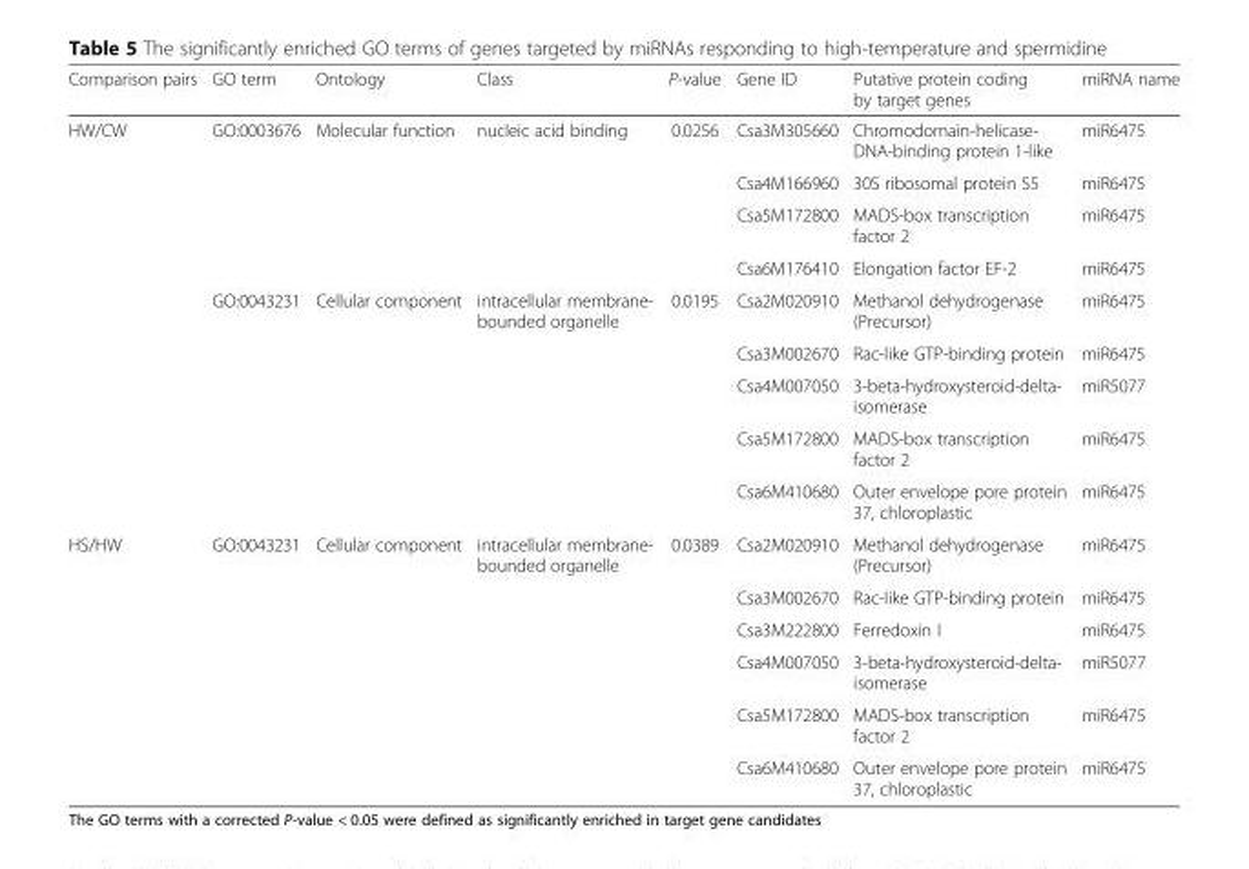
<table><thead><tr><td>Comparison pairs</td><td>GO term</td><td>Ontology</td><td>Class</td><td>P-value</td><td>Gene ID</td><td>Putative protein coding by target genes</td><td>miRNA name</td></tr></thead><tbody><tr><td rowspan="9">HW/CW</td><td>GO:0003676</td><td>Molecular function</td><td>nucleic acid binding</td><td>0.0256</td><td>Csa3M305660</td><td>Chromodomain-helicase- DNA-binding protein 1-like</td><td>miR6475</td></tr><tr><td></td><td></td><td></td><td></td><td>Csa4M166960</td><td>30S ribosomal protein S5</td><td>miR6475</td></tr><tr><td></td><td></td><td></td><td></td><td>Csa5M172800</td><td>MADS-box transcription factor 2</td><td>miR6475</td></tr><tr><td></td><td></td><td></td><td></td><td>Csa6M176410</td><td>Elongation factor EF-2</td><td>miR6475</td></tr><tr><td>GO:0043231</td><td>Cellular component</td><td>intracellular membrane- bounded organelle</td><td>0.0195</td><td>Csa2M020910</td><td>Methanol dehydrogenase (Precursor)</td><td>miR6475</td></tr><tr><td></td><td></td><td></td><td></td><td>Csa3M002670</td><td>Rac-like GTP-binding protein</td><td>miR6475</td></tr><tr><td></td><td></td><td></td><td></td><td>Csa4M007050</td><td>3-beta-hydroxysteroid-delta- isomerase</td><td>miR5077</td></tr><tr><td></td><td></td><td></td><td></td><td>Csa5M172800</td><td>MADS-box transcription factor 2</td><td>miR6475</td></tr><tr><td></td><td></td><td></td><td></td><td>Csa6M410680</td><td>Outer envelope pore protein 37, chloroplastic</td><td>miR6475</td></tr><tr><td rowspan="6">HS/HW</td><td>GO:0043231</td><td>Cellular component</td><td>intracellular membrane- bounded organelle</td><td>0.0389</td><td>Csa2M020910</td><td>Methanol dehydrogenase (Precursor)</td><td>miR6475</td></tr><tr><td></td><td></td><td></td><td></td><td>Csa3M002670</td><td>Rac-like GTP-binding protein</td><td>miR6475</td></tr><tr><td></td><td></td><td></td><td></td><td>Csa3M222800</td><td>Ferredoxin I</td><td>miR6475</td></tr><tr><td></td><td></td><td></td><td></td><td>Csa4M007050</td><td>3-beta-hydroxysteroid-delta- isomerase</td><td>miR5077</td></tr><tr><td></td><td></td><td></td><td></td><td>Csa5M172800</td><td>MADS-box transcription factor 2</td><td>miR6475</td></tr><tr><td></td><td></td><td></td><td></td><td>Csa6M410680</td><td>Outer envelope pore protein 37, chloroplastic</td><td>miR6475</td></tr></tbody></table>